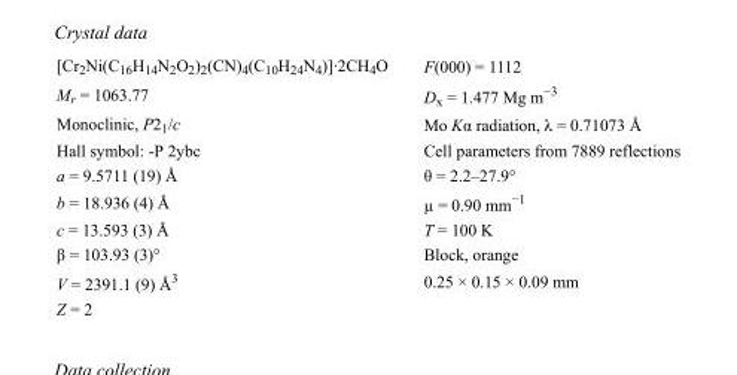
<table><tbody><tr><td>[Cr<sub>2</sub>Ni(C<sub>16</sub>H<sub>14</sub>N<sub>2</sub>O<sub>2</sub>)<sub>2</sub>(CN)<sub>4</sub>(C<sub>10</sub>H<sub>24</sub>N<sub>4</sub>)]·2CH<sub>4</sub>O</td><td>F(000) = 1112</td></tr><tr><td>M<sub>r</sub> = 1063.77</td><td>D<sub>x</sub> = 1.477 Mg m<sup>−3</sup></td></tr><tr><td>Monoclinic, P2<sub>1</sub>/c</td><td>Mo Kα radiation, λ = 0.71073 Å</td></tr><tr><td>Hall symbol: -P 2ybc</td><td>Cell parameters from 7889 reflections</td></tr><tr><td>a = 9.5711 (19) Å</td><td>θ = 2.2–27.9°</td></tr><tr><td>b = 18.936 (4) Å</td><td>µ = 0.90 mm<sup>−1</sup></td></tr><tr><td>c = 13.593 (3) Å</td><td>T = 100 K</td></tr><tr><td>β = 103.93 (3)°</td><td>Block, orange</td></tr><tr><td>V = 2391.1 (9) Å<sup>3</sup></td><td>0.25 × 0.15 × 0.09 mm</td></tr><tr><td>Z = 2</td><td></td></tr></tbody></table>